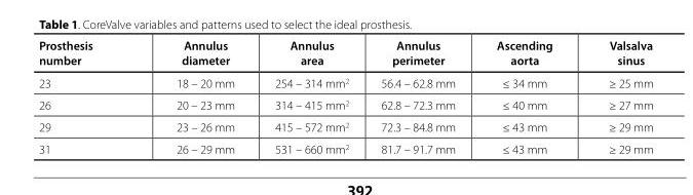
<table><thead><tr><td>Prosthesis number</td><td>Annulus diameter</td><td>Annulus area</td><td>Annulus perimeter</td><td>Ascending aorta</td><td>Valsalva sinus</td></tr></thead><tbody><tr><td>23</td><td>18 – 20 mm</td><td>254 – 314 mm<sup>2</sup></td><td>56.4 – 62.8 mm</td><td>≤ 34 mm</td><td>≥ 25 mm</td></tr><tr><td>26</td><td>20 – 23 mm</td><td>314 – 415 mm<sup>2</sup></td><td>62.8 – 72.3 mm</td><td>≤ 40 mm</td><td>≥ 27 mm</td></tr><tr><td>29</td><td>23 – 26 mm</td><td>415 – 572 mm<sup>2</sup></td><td>72.3 – 84.8 mm</td><td>≤ 43 mm</td><td>≥ 29 mm</td></tr><tr><td>31</td><td>26 – 29 mm</td><td>531 – 660 mm<sup>2</sup></td><td>81.7 – 91.7 mm</td><td>≤ 43 mm</td><td>≥ 29 mm</td></tr></tbody></table>